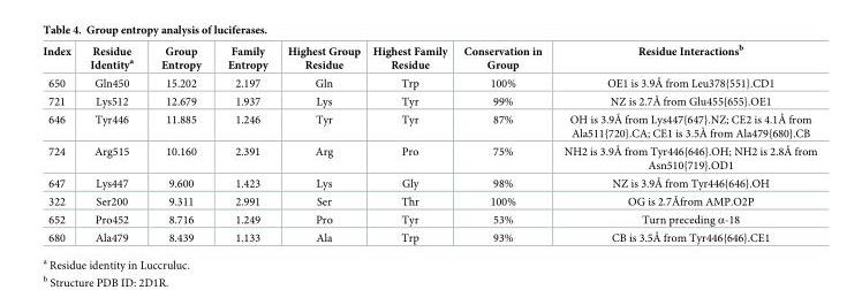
<table><thead><tr><td>Index</td><td>Residue Identity<sup>a</sup></td><td>Group Entropy</td><td>Family Entropy</td><td>Highest Group Residue</td><td>Highest Family Residue</td><td>Conservation in Group</td><td>Residue Interactions<sup>b</sup></td></tr></thead><tbody><tr><td>650</td><td>Gln450</td><td>15.202</td><td>2.197</td><td>Gln</td><td>Trp</td><td>100%</td><td>OE1 is 3.9Å from Leu378{551}.CD1</td></tr><tr><td>721</td><td>Lys512</td><td>12.679</td><td>1.937</td><td>Lys</td><td>Tyr</td><td>99%</td><td>NZ is 2.7Å from Glu455{655}.OE1</td></tr><tr><td>646</td><td>Tyr446</td><td>11.885</td><td>1.246</td><td>Tyr</td><td>Tyr</td><td>87%</td><td>OH is 3.9Å from Lys447{647}.NZ; CE2 is 4.1Å from Ala511{720}.CA; CE1 is 3.5Å from Ala479{680}.CB</td></tr><tr><td>724</td><td>Arg515</td><td>10.160</td><td>2.391</td><td>Arg</td><td>Pro</td><td>75%</td><td>NH2 is 3.9Å from Tyr446{646}.OH; NH2 is 2.8Å from Asn510{719}.OD1</td></tr><tr><td>647</td><td>Lys447</td><td>9.600</td><td>1.423</td><td>Lys</td><td>Gly</td><td>98%</td><td>NZ is 3.9Å from Tyr446{646}.OH</td></tr><tr><td>322</td><td>Ser200</td><td>9.311</td><td>2.991</td><td>Ser</td><td>Thr</td><td>100%</td><td>OG is 2.7Åfrom AMP.O2P</td></tr><tr><td>652</td><td>Pro452</td><td>8.716</td><td>1.249</td><td>Pro</td><td>Tyr</td><td>53%</td><td>Turn preceding α-18</td></tr><tr><td>680</td><td>Ala479</td><td>8.439</td><td>1.133</td><td>Ala</td><td>Trp</td><td>93%</td><td>CB is 3.5Å from Tyr446{646}.CE1</td></tr></tbody></table>